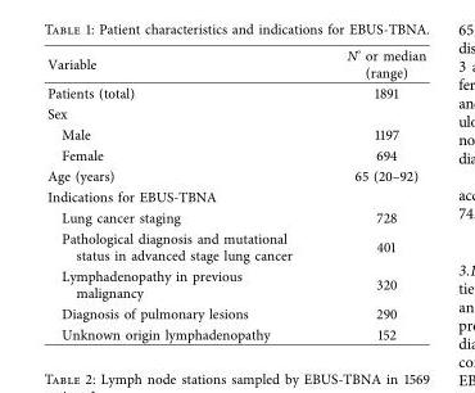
<table><thead><tr><td>Variable</td><td>N° or median (range)</td></tr></thead><tbody><tr><td>Patients (total)</td><td>1891</td></tr><tr><td colspan="2">Sex</td></tr><tr><td>Male</td><td>1197</td></tr><tr><td>Female</td><td>694</td></tr><tr><td>Age (years)</td><td>65 (20–92)</td></tr><tr><td colspan="2">Indications for EBUS-TBNA</td></tr><tr><td>Lung cancer staging</td><td>728</td></tr><tr><td>Pathological diagnosis and mutational status in advanced stage lung cancer</td><td>401</td></tr><tr><td>Lymphadenopathy in previous malignancy</td><td>320</td></tr><tr><td>Diagnosis of pulmonary lesions</td><td>290</td></tr><tr><td>Unknown origin lymphadenopathy</td><td>152</td></tr></tbody></table>